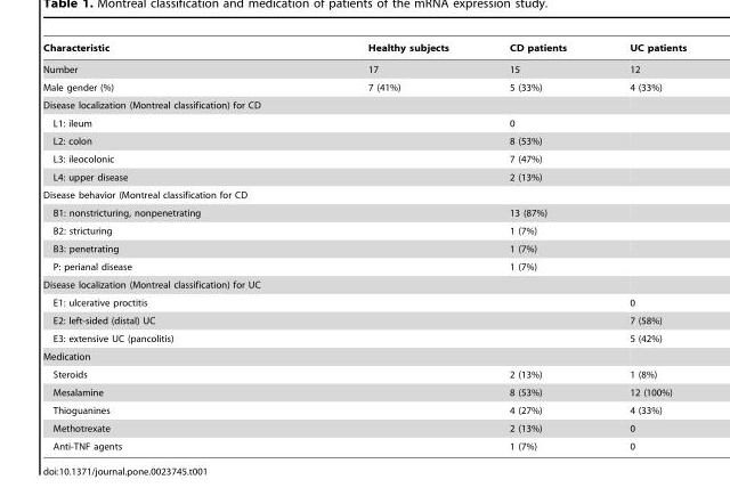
<table><thead><tr><td>Characteristic</td><td>Healthy subjects</td><td>CD patients</td><td>UC patients</td></tr></thead><tbody><tr><td>Number</td><td>17</td><td>15</td><td>12</td></tr><tr><td>Male gender (%)</td><td>7 (41%)</td><td>5 (33%)</td><td>4 (33%)</td></tr><tr><td colspan="4">Disease localization (Montreal classification) for CD</td></tr><tr><td>L1: ileum</td><td></td><td>0</td><td></td></tr><tr><td>L2: colon</td><td></td><td>8 (53%)</td><td></td></tr><tr><td>L3: ileocolonic</td><td></td><td>7 (47%)</td><td></td></tr><tr><td>L4: upper disease</td><td></td><td>2 (13%)</td><td></td></tr><tr><td colspan="4">Disease behavior (Montreal classification for CD</td></tr><tr><td>B1: nonstricturing, nonpenetrating</td><td></td><td>13 (87%)</td><td></td></tr><tr><td>B2: stricturing</td><td></td><td>1 (7%)</td><td></td></tr><tr><td>B3: penetrating</td><td></td><td>1 (7%)</td><td></td></tr><tr><td>P: perianal disease</td><td></td><td>1 (7%)</td><td></td></tr><tr><td colspan="4">Disease localization (Montreal classification) for UC</td></tr><tr><td>E1: ulcerative proctitis</td><td></td><td></td><td>0</td></tr><tr><td>E2: left-sided (distal) UC</td><td></td><td></td><td>7 (58%)</td></tr><tr><td>E3: extensive UC (pancolitis)</td><td></td><td></td><td>5 (42%)</td></tr><tr><td colspan="4">Medication</td></tr><tr><td>Steroids</td><td></td><td>2 (13%)</td><td>1 (8%)</td></tr><tr><td>Mesalamine</td><td></td><td>8 (53%)</td><td>12 (100%)</td></tr><tr><td>Thioguanines</td><td></td><td>4 (27%)</td><td>4 (33%)</td></tr><tr><td>Methotrexate</td><td></td><td>2 (13%)</td><td>0</td></tr><tr><td>Anti-TNF agents</td><td></td><td>1 (7%)</td><td>0</td></tr></tbody></table>